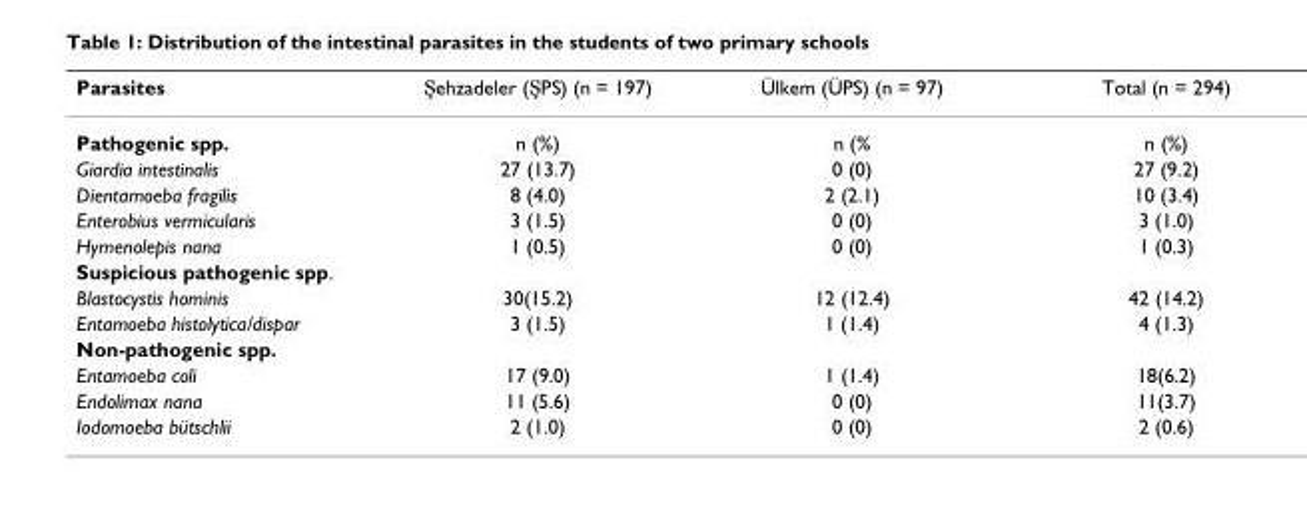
<table><thead><tr><td>Parasites</td><td>Şehzadeler (ŞPS) (n = 197)</td><td>Ülkem (ÜPS) (n = 97)</td><td>Total (n = 294)</td></tr></thead><tbody><tr><td>Pathogenic spp.</td><td>n (%)</td><td>n (%</td><td>n (%)</td></tr><tr><td>Giardia intestinalis</td><td>27 (13.7)</td><td>0 (0)</td><td>27 (9.2)</td></tr><tr><td>Dientamoeba fragilis</td><td>8 (4.0)</td><td>2 (2.1)</td><td>10 (3.4)</td></tr><tr><td>Enterobius vermicularis</td><td>3 (1.5)</td><td>0 (0)</td><td>3 (1.0)</td></tr><tr><td>Hymenolepis nana</td><td>1 (0.5)</td><td>0 (0)</td><td>1 (0.3)</td></tr><tr><td colspan="4">Suspicious pathogenic spp.</td></tr><tr><td>Blastocystis hominis</td><td>30(15.2)</td><td>12 (12.4)</td><td>42 (14.2)</td></tr><tr><td>Entamoeba histolytica/dispar</td><td>3 (1.5)</td><td>1 (1.4)</td><td>4 (1.3)</td></tr><tr><td colspan="4">Non-pathogenic spp.</td></tr><tr><td>Entamoeba coli</td><td>17 (9.0)</td><td>1 (1.4)</td><td>18(6.2)</td></tr><tr><td>Endolimax nana</td><td>11 (5.6)</td><td>0 (0)</td><td>11(3.7)</td></tr><tr><td>Iodomoeba bütschlii</td><td>2 (1.0)</td><td>0 (0)</td><td>2 (0.6)</td></tr></tbody></table>